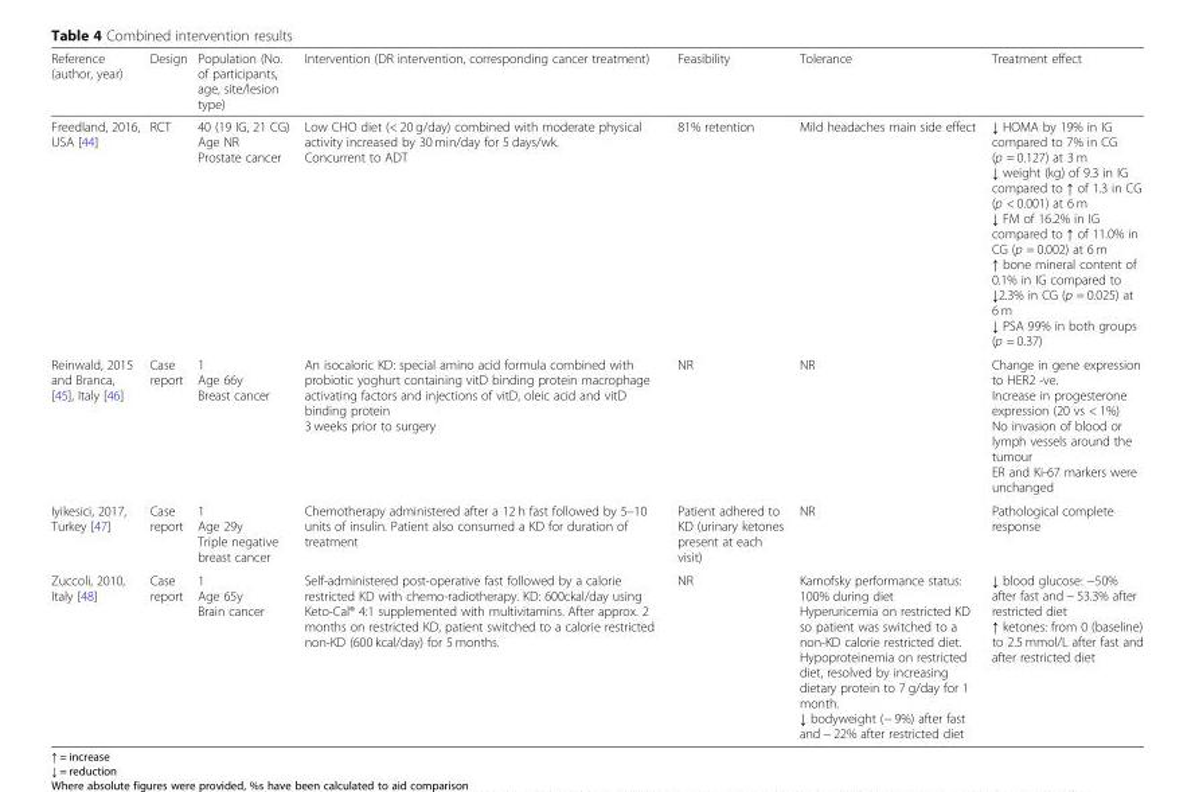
<table><thead><tr><td>Reference (author, year)</td><td>Design</td><td>Population (No. of participants, age, site/lesion type)</td><td>Intervention (DR intervention, corresponding cancer treatment)</td><td>Feasibility</td><td>Tolerance</td><td>Treatment effect</td></tr></thead><tbody><tr><td>Freedland, 2016, USA [44]</td><td>RCT</td><td>40 (19 IG, 21 CG) Age NR Prostate cancer</td><td>Low CHO diet (&lt; 20 g/day) combined with moderate physical activity increased by 30 min/day for 5 days/wk. Concurrent to ADT</td><td>81% retention</td><td>Mild headaches main side effect</td><td>↓ HOMA by 19% in IG compared to 7% in CG (p = 0.127) at 3 m ↓ weight (kg) of 9.3 in IG compared to ↑ of 1.3 in CG (p &lt; 0.001) at 6 m ↓ FM of 16.2% in IG compared to ↑ of 11.0% in CG (p = 0.002) at 6 m ↑ bone mineral content of 0.1% in IG compared to ↓2.3% in CG (p = 0.025) at 6 m ↓ PSA 99% in both groups (p = 0.37)</td></tr><tr><td>Reinwald, 2015 and Branca, [45], Italy [46]</td><td>Case report</td><td>1 Age 66y Breast cancer</td><td>An isocaloric KD: special amino acid formula combined with probiotic yoghurt containing vitD binding protein macrophage activating factors and injections of vitD, oleic acid and vitD binding protein 3 weeks prior to surgery</td><td>NR</td><td>NR</td><td>Change in gene expression to HER2 -ve. Increase in progesterone expression (20 vs &lt; 1%) No invasion of blood or lymph vessels around the tumour ER and Ki-67 markers were unchanged</td></tr><tr><td>Iyikesici, 2017, Turkey [47]</td><td>Case report</td><td>1 Age 29y Triple negative breast cancer</td><td>Chemotherapy administered after a 12 h fast followed by 5–10 units of insulin. Patient also consumed a KD for duration of treatment</td><td>Patient adhered to KD (urinary ketones present at each visit)</td><td>NR</td><td>Pathological complete response</td></tr><tr><td>Zuccoli, 2010, Italy [48]</td><td>Case report</td><td>1 Age 65y Brain cancer</td><td>Self-administered post-operative fast followed by a calorie restricted KD with chemo-radiotherapy. KD: 600ckal/day using Keto-Cal® 4:1 supplemented with multivitamins. After approx. 2 months on restricted KD, patient switched to a calorie restricted non-KD (600 kcal/day) for 5 months.</td><td>NR</td><td>Karnofsky performance status: 100% during diet Hyperuricemia on restricted KD so patient was switched to a non-KD calorie restricted diet. Hypoproteinemia on restricted diet, resolved by increasing dietary protein to 7 g/day for 1 month. ↓ bodyweight (− 9%) after fast and − 22% after restricted diet</td><td>↓ blood glucose: −50% after fast and − 53.3% after restricted diet ↑ ketones: from 0 (baseline) to 2.5 mmol/L after fast and after restricted diet</td></tr></tbody></table>